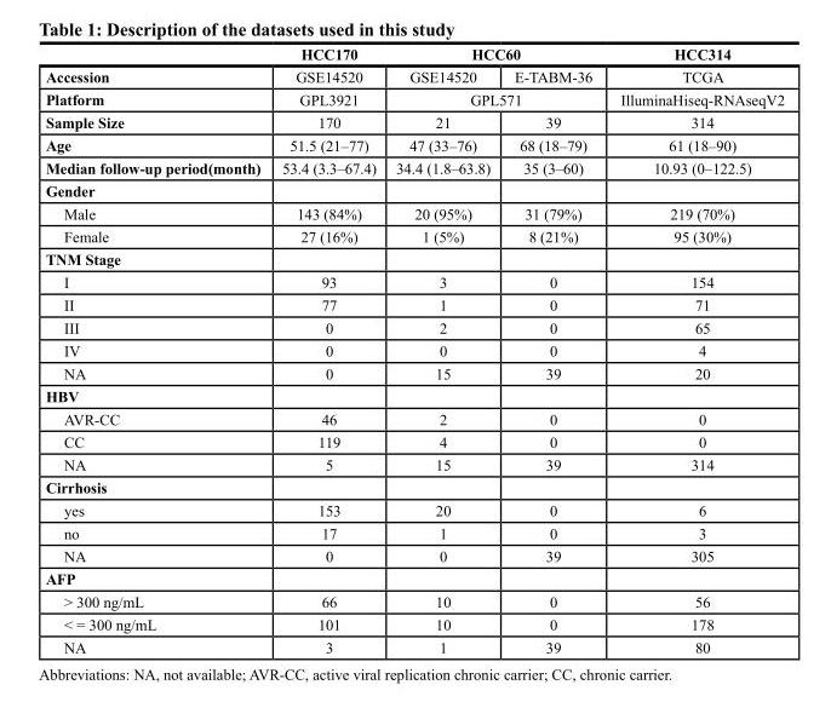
<table><thead><tr><td rowspan="2">Accession</td><td rowspan="2">Hcc170 GSE14520</td><td colspan="2">Hcc60</td><td rowspan="2">Hcc314 TCGA</td></tr><tr><td>GSE14520</td><td>E‑TABM‑36</td></tr></thead><tbody><tr><td>Platform</td><td>GPL3921</td><td colspan="2">GPL571</td><td>IlluminaHiseq‑RNAseqV2</td></tr><tr><td>sample size</td><td>170</td><td>21</td><td>39</td><td>314</td></tr><tr><td>Age</td><td>51.5 (21–77)</td><td>47 (33–76)</td><td>68 (18–79)</td><td>61 (18–90)</td></tr><tr><td>Median follow‑up period(month)</td><td>53.4 (3.3–67.4)</td><td>34.4 (1.8–63.8)</td><td>35 (3–60)</td><td>10.93 (0–122.5)</td></tr><tr><td colspan="5">Gender</td></tr><tr><td>Male</td><td>143 (84%)</td><td>20 (95%)</td><td>31 (79%)</td><td>219 (70%)</td></tr><tr><td>Female</td><td>27 (16%)</td><td>1 (5%)</td><td>8 (21%)</td><td>95 (30%)</td></tr><tr><td colspan="5">tnM stage</td></tr><tr><td>I</td><td>93</td><td>3</td><td>0</td><td>154</td></tr><tr><td>II</td><td>77</td><td>1</td><td>0</td><td>71</td></tr><tr><td>III</td><td>0</td><td>2</td><td>0</td><td>65</td></tr><tr><td>IV</td><td>0</td><td>0</td><td>0</td><td>4</td></tr><tr><td>NA</td><td>0</td><td>15</td><td>39</td><td>20</td></tr><tr><td colspan="5">HbV</td></tr><tr><td>AVR‑CC</td><td>46</td><td>2</td><td>0</td><td>0</td></tr><tr><td>CC</td><td>119</td><td>4</td><td>0</td><td>0</td></tr><tr><td>NA</td><td>5</td><td>15</td><td>39</td><td>314</td></tr><tr><td colspan="5">cirrhosis</td></tr><tr><td>yes</td><td>153</td><td>20</td><td>0</td><td>6</td></tr><tr><td>no</td><td>17</td><td>1</td><td>0</td><td>3</td></tr><tr><td>NA</td><td>0</td><td>0</td><td>39</td><td>305</td></tr><tr><td colspan="5">AFP</td></tr><tr><td>&gt; 300 ng/mL</td><td>66</td><td>10</td><td>0</td><td>56</td></tr><tr><td>&lt; = 300 ng/mL</td><td>101</td><td>10</td><td>0</td><td>178</td></tr><tr><td>NA</td><td>3</td><td>1</td><td>39</td><td>80</td></tr></tbody></table>